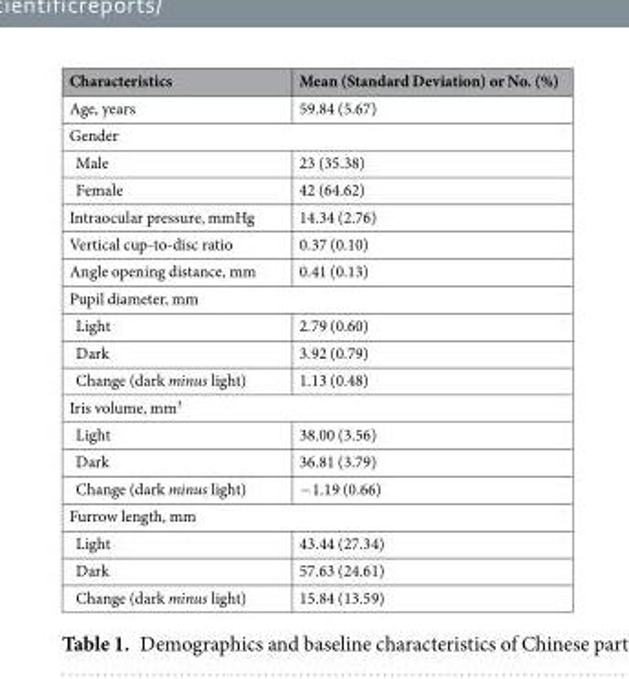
<table><thead><tr><td>Characteristics</td><td>Mean (Standard Deviation) or No. (%)</td></tr></thead><tbody><tr><td>Age, years</td><td>59.84 (5.67)</td></tr><tr><td colspan="2">Gender</td></tr><tr><td>Male</td><td>23 (35.38)</td></tr><tr><td>Female</td><td>42 (64.62)</td></tr><tr><td>Intraocular pressure, mmHg</td><td>14.34 (2.76)</td></tr><tr><td>Vertical cup-to-disc ratio</td><td>0.37 (0.10)</td></tr><tr><td>Angle opening distance, mm</td><td>0.41 (0.13)</td></tr><tr><td colspan="2">Pupil diameter, mm</td></tr><tr><td>Light</td><td>2.79 (0.60)</td></tr><tr><td>Dark</td><td>3.92 (0.79)</td></tr><tr><td>Change (dark minus light)</td><td>1.13 (0.48)</td></tr><tr><td colspan="2">Iris volume, mm<sup>3</sup></td></tr><tr><td>Light</td><td>38.00 (3.56)</td></tr><tr><td>Dark</td><td>36.81 (3.79)</td></tr><tr><td>Change (dark minus light)</td><td>−1.19 (0.66)</td></tr><tr><td colspan="2">Furrow length, mm</td></tr><tr><td>Light</td><td>43.44 (27.34)</td></tr><tr><td>Dark</td><td>57.63 (24.61)</td></tr><tr><td>Change (dark minus light)</td><td>15.84 (13.59)</td></tr></tbody></table>